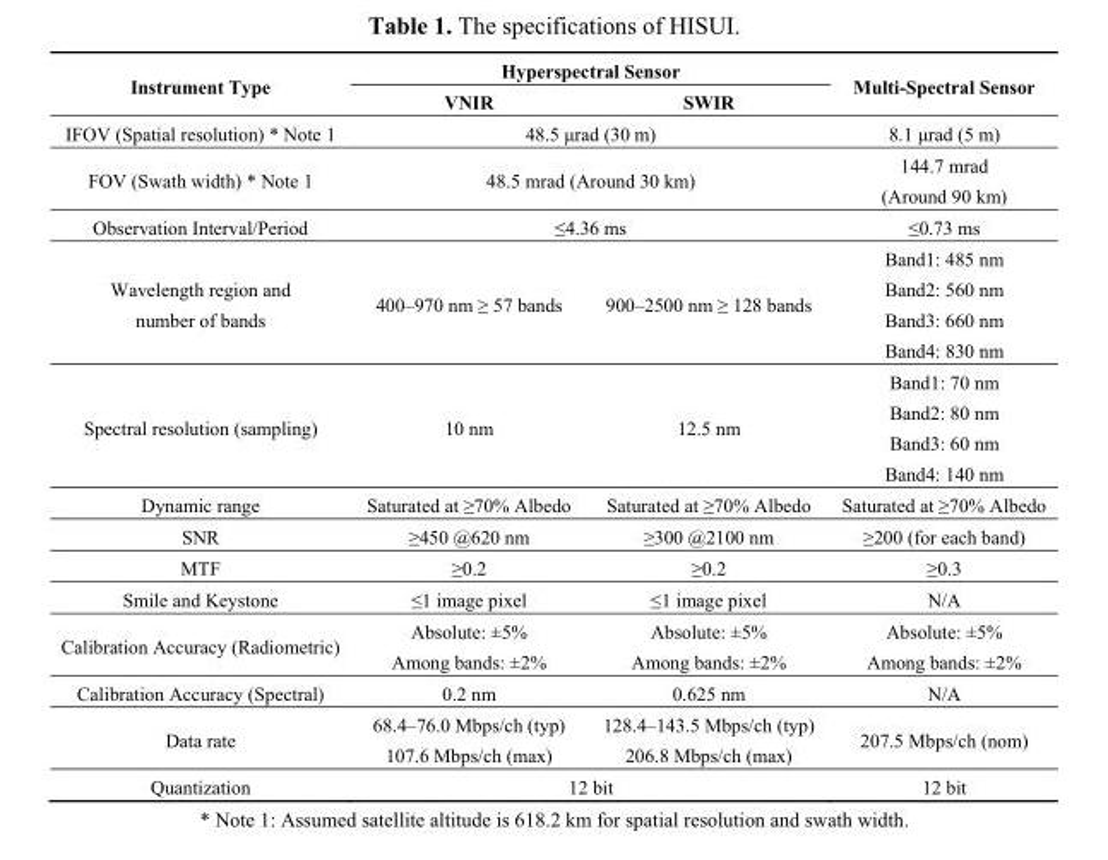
<table><thead><tr><td rowspan="2">Instrument Type</td><td colspan="2">Hyperspectral Sensor</td><td rowspan="2">Multi-Spectral Sensor</td></tr><tr><td>VNIR</td><td>SWIR</td></tr></thead><tbody><tr><td>IFOV (Spatial resolution) * Note 1</td><td colspan="2">48.5 μrad (30 m)</td><td>8.1 μrad (5 m)</td></tr><tr><td>FOV (Swath width) * Note 1</td><td colspan="2">48.5 mrad (Around 30 km)</td><td>144.7 mrad (Around 90 km)</td></tr><tr><td>Observation Interval/Period</td><td colspan="2">≤4.36 ms</td><td>≤0.73 ms</td></tr><tr><td>Wavelength region and number of bands</td><td>400–970 nm ≥ 57 bands</td><td>900–2500 nm ≥ 128 bands</td><td>Band1: 485 nm Band2: 560 nm Band3: 660 nm Band4: 830 nm</td></tr><tr><td>Spectral resolution (sampling)</td><td>10 nm</td><td>12.5 nm</td><td>Band1: 70 nm Band2: 80 nm Band3: 60 nm Band4: 140 nm</td></tr><tr><td>Dynamic range</td><td>Saturated at ≥70% Albedo</td><td>Saturated at ≥70% Albedo</td><td>Saturated at ≥70% Albedo</td></tr><tr><td>SNR</td><td>≥450 @620 nm</td><td>≥300 @2100 nm</td><td>≥200 (for each band)</td></tr><tr><td>MTF</td><td>≥0.2</td><td>≥0.2</td><td>≥0.3</td></tr><tr><td>Smile and Keystone</td><td>≤1 image pixel</td><td>≤1 image pixel</td><td>N/A</td></tr><tr><td>Calibration Accuracy (Radiometric)</td><td>Absolute: ±5% Among bands: ±2%</td><td>Absolute: ±5% Among bands: ±2%</td><td>Absolute: ±5% Among bands: ±2%</td></tr><tr><td>Calibration Accuracy (Spectral)</td><td>0.2 nm</td><td>0.625 nm</td><td>N/A</td></tr><tr><td>Data rate</td><td>68.4–76.0 Mbps/ch (typ) 107.6 Mbps/ch (max)</td><td>128.4–143.5 Mbps/ch (typ) 206.8 Mbps/ch (max)</td><td>207.5 Mbps/ch (nom)</td></tr><tr><td>Quantization</td><td colspan="2">12 bit</td><td>12 bit</td></tr></tbody></table>